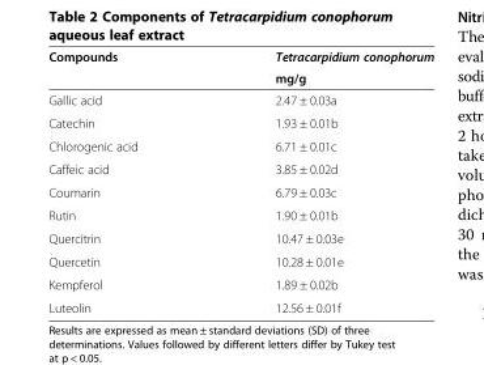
<table><thead><tr><td rowspan="2">Compounds</td><td rowspan="2">Tetracarpidium conophorum mg/g</td></tr><tr></tr></thead><tbody><tr><td>Gallic acid</td><td>2.47 ± 0.03a</td></tr><tr><td>Catechin</td><td>1.93 ± 0.01b</td></tr><tr><td>Chlorogenic acid</td><td>6.71 ± 0.01c</td></tr><tr><td>Caffeic acid</td><td>3.85 ± 0.02d</td></tr><tr><td>Coumarin</td><td>6.79 ± 0.03c</td></tr><tr><td>Rutin</td><td>1.90 ± 0.01b</td></tr><tr><td>Quercitrin</td><td>10.47 ± 0.03e</td></tr><tr><td>Quercetin</td><td>10.28 ± 0.01e</td></tr><tr><td>Kempferol</td><td>1.89 ± 0.02b</td></tr><tr><td>Luteolin</td><td>12.56 ± 0.01f</td></tr></tbody></table>